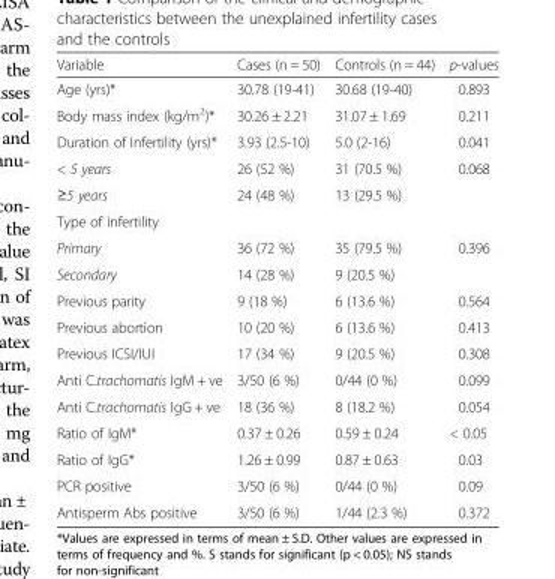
<table><thead><tr><td>Variable</td><td>Cases (n = 50)</td><td>Controls (n = 44)</td><td>p-values</td></tr></thead><tbody><tr><td>Age (yrs)*</td><td>30.78 (19-41)</td><td>30.68 (19-40)</td><td>0.893</td></tr><tr><td>Body mass index (kg/m<sup>2</sup>)*</td><td>30.26 ± 2.21</td><td>31.07 ± 1.69</td><td>0.211</td></tr><tr><td>Duration of Infertility (yrs)*</td><td>3.93 (2.5-10)</td><td>5.0 (2-16)</td><td>0.041</td></tr><tr><td>&lt; 5 years</td><td>26 (52 %)</td><td>31 (70.5 %)</td><td>0.068</td></tr><tr><td>≥5 years</td><td>24 (48 %)</td><td>13 (29.5 %)</td><td></td></tr><tr><td colspan="4">Type of infertility</td></tr><tr><td>Primary</td><td>36 (72 %)</td><td>35 (79.5 %)</td><td>0.396</td></tr><tr><td>Secondary</td><td>14 (28 %)</td><td>9 (20.5 %)</td><td></td></tr><tr><td>Previous parity</td><td>9 (18 %)</td><td>6 (13.6 %)</td><td>0.564</td></tr><tr><td>Previous abortion</td><td>10 (20 %)</td><td>6 (13.6 %)</td><td>0.413</td></tr><tr><td>Previous ICSI/IUI</td><td>17 (34 %)</td><td>9 (20.5 %)</td><td>0.308</td></tr><tr><td>Anti C.trachomatis IgM + ve</td><td>3/50 (6 %)</td><td>0/44 (0 %)</td><td>0.099</td></tr><tr><td>Anti C.trachomatis IgG + ve</td><td>18 (36 %)</td><td>8 (18.2 %)</td><td>0.054</td></tr><tr><td>Ratio of IgM*</td><td>0.37 ± 0.26</td><td>0.59 ± 0.24</td><td>&lt; 0.05</td></tr><tr><td>Ratio of IgG*</td><td>1.26 ± 0.99</td><td>0.87 ± 0.63</td><td>0.03</td></tr><tr><td>PCR positive</td><td>3/50 (6 %)</td><td>0/44 (0 %)</td><td>0.09</td></tr><tr><td>Antisperm Abs positive</td><td>3/50 (6 %)</td><td>1/44 (2.3 %)</td><td>0.372</td></tr></tbody></table>